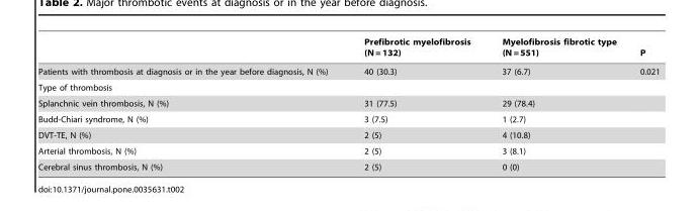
<table><thead><tr><td></td><td>Prefibrotic myelofibrosis (N = 132)</td><td>Myelofibrosis fibrotic type (N = 551)</td><td>P</td></tr></thead><tbody><tr><td>Patients with thrombosis at diagnosis or in the year before diagnosis, N (%)</td><td>40 (30.3)</td><td>37 (6.7)</td><td>0.021</td></tr><tr><td colspan="4">Type of thrombosis</td></tr><tr><td>Splanchnic vein thrombosis, N (%)</td><td>31 (77.5)</td><td>29 (78.4)</td><td></td></tr><tr><td>Budd-Chiari syndrome, N (%)</td><td>3 (7.5)</td><td>1 (2.7)</td><td></td></tr><tr><td>DVT-TE, N (%)</td><td>2 (5)</td><td>4 (10.8)</td><td></td></tr><tr><td>Arterial thrombosis, N (%)</td><td>2 (5)</td><td>3 (8.1)</td><td></td></tr><tr><td>Cerebral sinus thrombosis, N (%)</td><td>2 (5)</td><td>0 (0)</td><td></td></tr></tbody></table>